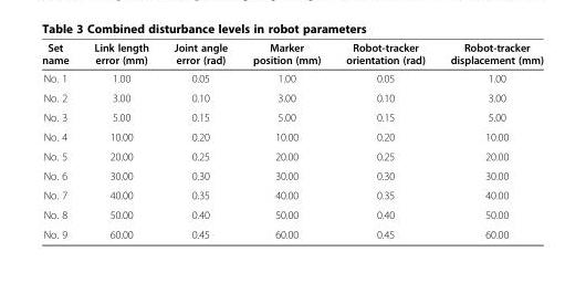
<table><thead><tr><td>Set name</td><td>Link length error (mm)</td><td>Joint angle error (rad)</td><td>Marker position (mm)</td><td>Robot-tracker orientation (rad)</td><td>Robot-tracker displacement (mm)</td></tr></thead><tbody><tr><td>No. 1</td><td>1.00</td><td>0.05</td><td>1.00</td><td>0.05</td><td>1.00</td></tr><tr><td>No. 2</td><td>3.00</td><td>0.10</td><td>3.00</td><td>0.10</td><td>3.00</td></tr><tr><td>No. 3</td><td>5.00</td><td>0.15</td><td>5.00</td><td>0.15</td><td>5.00</td></tr><tr><td>No. 4</td><td>10.00</td><td>0.20</td><td>10.00</td><td>0.20</td><td>10.00</td></tr><tr><td>No. 5</td><td>20.00</td><td>0.25</td><td>20.00</td><td>0.25</td><td>20.00</td></tr><tr><td>No. 6</td><td>30.00</td><td>0.30</td><td>30.00</td><td>0.30</td><td>30.00</td></tr><tr><td>No. 7</td><td>40.00</td><td>0.35</td><td>40.00</td><td>0.35</td><td>40.00</td></tr><tr><td>No. 8</td><td>50.00</td><td>0.40</td><td>50.00</td><td>0.40</td><td>50.00</td></tr><tr><td>No. 9</td><td>60.00</td><td>0.45</td><td>60.00</td><td>0.45</td><td>60.00</td></tr></tbody></table>